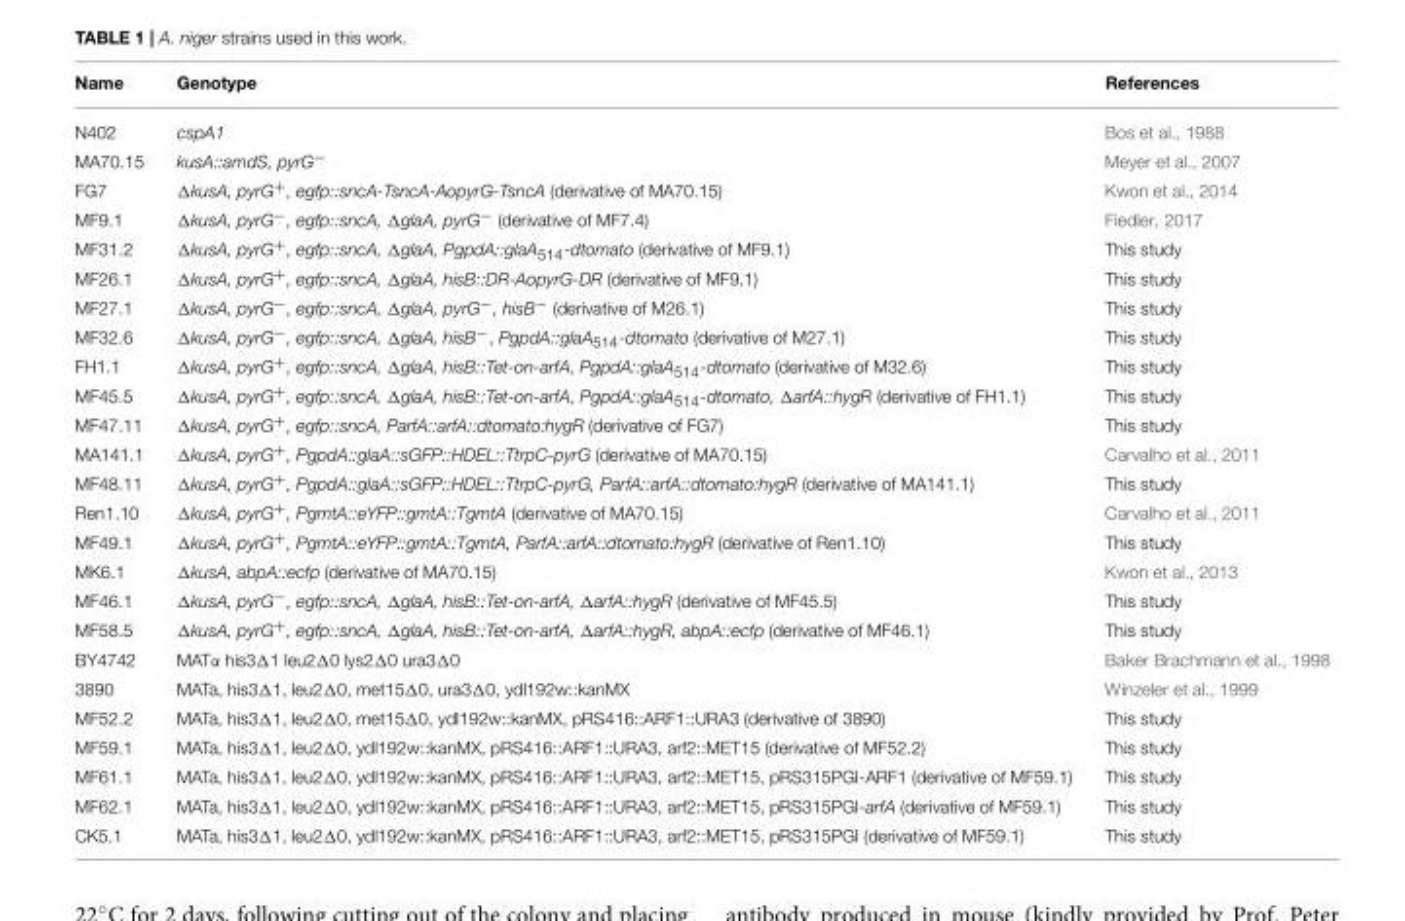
<table><thead><tr><td>Name</td><td>Genotype</td><td>References</td></tr></thead><tbody><tr><td>N402</td><td>cspA1</td><td>Bos et al., 1988</td></tr><tr><td>MA70.15</td><td>kusA::amdS, pyrG<sup>−</sup></td><td>Meyer et al., 2007</td></tr><tr><td>FG7</td><td>ΔkusA, pyrG<sup>+</sup>, egfp::sncA-TsncA-AopyrG-TsncA (derivative of MA70.15)</td><td>Kwon et al., 2014</td></tr><tr><td>MF9.1</td><td>ΔkusA, pyrG<sup>−</sup>, egfp::sncA, ΔglaA, pyrG<sup>−</sup> (derivative of MF7.4)</td><td>Fiedler, 2017</td></tr><tr><td>MF31.2</td><td>ΔkusA, pyrG<sup>+</sup>, egfp::sncA, ΔglaA, PgpdA::glaA<sub>514</sub>-dtomato (derivative of MF9.1)</td><td>This study</td></tr><tr><td>MF26.1</td><td>ΔkusA, pyrG<sup>+</sup>, egfp::sncA, ΔglaA, hisB::DR-AopyrG-DR (derivative of MF9.1)</td><td>This study</td></tr><tr><td>MF27.1</td><td>ΔkusA, pyrG<sup>−</sup>, egfp::sncA, ΔglaA, pyrG<sup>−</sup>, hisB<sup>−</sup> (derivative of M26.1)</td><td>This study</td></tr><tr><td>MF32.6</td><td>ΔkusA, pyrG<sup>−</sup>, egfp::sncA, ΔglaA, hisB<sup>−</sup>, PgpdA::glaA<sub>514</sub>-dtomato (derivative of M27.1)</td><td>This study</td></tr><tr><td>FH1.1</td><td>ΔkusA, pyrG<sup>+</sup>, egfp::sncA, ΔglaA, hisB::Tet-on-arfA, PgpdA::glaA<sub>514</sub>-dtomato (derivative of M32.6)</td><td>This study</td></tr><tr><td>MF45.5</td><td>ΔkusA, pyrG<sup>+</sup>, egfp::sncA, ΔglaA, hisB::Tet-on-arfA, PgpdA::glaA<sub>514</sub>-dtomato, ΔarfA::hygR (derivative of FH1.1)</td><td>This study</td></tr><tr><td>MF47.11</td><td>ΔkusA, pyrG<sup>+</sup>, egfp::sncA, ParfA::arfA::dtomato:hygR (derivative of FG7)</td><td>This study</td></tr><tr><td>MA141.1</td><td>ΔkusA, pyrG<sup>+</sup>, PgpdA::glaA::sGFP::HDEL::TtrpC-pyrG (derivative of MA70.15)</td><td>Carvalho et al., 2011</td></tr><tr><td>MF48.11</td><td>ΔkusA, pyrG<sup>+</sup>, PgpdA::glaA::sGFP::HDEL::TtrpC-pyrG, ParfA::arfA::dtomato:hygR (derivative of MA141.1)</td><td>This study</td></tr><tr><td>Ren1.10</td><td>ΔkusA, pyrG<sup>+</sup>, PgmtA::eYFP::gmtA::TgmtA (derivative of MA70.15)</td><td>Carvalho et al., 2011</td></tr><tr><td>MF49.1</td><td>ΔkusA, pyrG<sup>+</sup>, PgmtA::eYFP::gmtA::TgmtA, ParfA::arfA::dtomato:hygR (derivative of Ren1.10)</td><td>This study</td></tr><tr><td>MK6.1</td><td>ΔkusA, abpA::ecfp (derivative of MA70.15)</td><td>Kwon et al., 2013</td></tr><tr><td>MF46.1</td><td>ΔkusA, pyrG<sup>−</sup>, egfp::sncA, ΔglaA, hisB::Tet-on-arfA, ΔarfA::hygR (derivative of MF45.5)</td><td>This study</td></tr><tr><td>MF58.5</td><td>ΔkusA, pyrG<sup>+</sup>, egfp::sncA, ΔglaA, hisB::Tet-on-arfA, ΔarfA::hygR, abpA::ecfp (derivative of MF46.1)</td><td>This study</td></tr><tr><td>BY4742</td><td>MATα his3Δ1 leu2Δ0 lys2Δ0 ura3Δ0</td><td>Baker Brachmann et al., 1998</td></tr><tr><td>3890</td><td>MATa, his3Δ1, leu2Δ0, met15Δ0, ura3Δ0, ydl192w::kanMX</td><td>Winzeler et al., 1999</td></tr><tr><td>MF52.2</td><td>MATa, his3Δ1, leu2Δ0, met15Δ0, ydl192w::kanMX, pRS416::ARF1::URA3 (derivative of 3890)</td><td>This study</td></tr><tr><td>MF59.1</td><td>MATa, his3Δ1, leu2Δ0, ydl192w::kanMX, pRS416::ARF1::URA3, arf2::MET15 (derivative of MF52.2)</td><td>This study</td></tr><tr><td>MF61.1</td><td>MATa, his3Δ1, leu2Δ0, ydl192w::kanMX, pRS416::ARF1::URA3, arf2::MET15, pRS315PGI-ARF1 (derivative of MF59.1)</td><td>This study</td></tr><tr><td>MF62.1</td><td>MATa, his3Δ1, leu2Δ0, ydl192w::kanMX, pRS416::ARF1::URA3, arf2::MET15, pRS315PGI-arfA (derivative of MF59.1)</td><td>This study</td></tr><tr><td>CK5.1</td><td>MATa, his3Δ1, leu2Δ0, ydl192w::kanMX, pRS416::ARF1::URA3, arf2::MET15, pRS315PGI (derivative of MF59.1)</td><td>This study</td></tr></tbody></table>